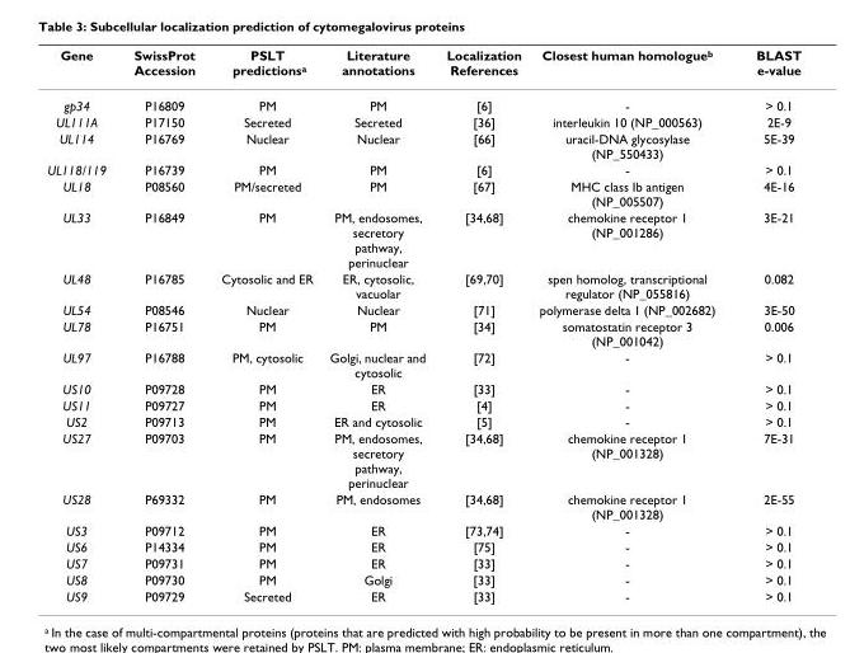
<table><thead><tr><td>Gene</td><td>SwissProt Accession</td><td>PSLT predictions<sup>a</sup></td><td>Literature annotations</td><td>Localization References</td><td>Closest human homologue<sup>b</sup></td><td>BLAST e-value</td></tr></thead><tbody><tr><td>gp34</td><td>P16809</td><td>PM</td><td>PM</td><td>[6]</td><td>-</td><td>&gt; 0.1</td></tr><tr><td>UL111A</td><td>P17150</td><td>Secreted</td><td>Secreted</td><td>[36]</td><td>interleukin 10 (NP_000563)</td><td>2E-9</td></tr><tr><td>UL114</td><td>P16769</td><td>Nuclear</td><td>Nuclear</td><td>[66]</td><td>uracil-DNA glycosylase (NP_550433)</td><td>5E-39</td></tr><tr><td>UL118/119</td><td>P16739</td><td>PM</td><td>PM</td><td>[6]</td><td>-</td><td>&gt; 0.1</td></tr><tr><td>UL18</td><td>P08560</td><td>PM/secreted</td><td>PM</td><td>[67]</td><td>MHC class Ib antigen (NP_005507)</td><td>4E-16</td></tr><tr><td>UL33</td><td>P16849</td><td>PM</td><td>PM, endosomes, secretory pathway, perinuclear</td><td>[34,68]</td><td>chemokine receptor 1 (NP_001286)</td><td>3E-21</td></tr><tr><td>UL48</td><td>P16785</td><td>Cytosolic and ER</td><td>ER, cytosolic, vacuolar</td><td>[69,70]</td><td>spen homolog, transcriptional regulator (NP_055816)</td><td>0.082</td></tr><tr><td>UL54</td><td>P08546</td><td>Nuclear</td><td>Nuclear</td><td>[71]</td><td>polymerase delta 1 (NP_002682)</td><td>3E-50</td></tr><tr><td>UL78</td><td>P16751</td><td>PM</td><td>PM</td><td>[34]</td><td>somatostatin receptor 3 (NP_001042)</td><td>0.006</td></tr><tr><td>UL97</td><td>P16788</td><td>PM, cytosolic</td><td>Golgi, nuclear and cytosolic</td><td>[72]</td><td>-</td><td>&gt; 0.1</td></tr><tr><td>US10</td><td>P09728</td><td>PM</td><td>ER</td><td>[33]</td><td>-</td><td>&gt; 0.1</td></tr><tr><td>US11</td><td>P09727</td><td>PM</td><td>ER</td><td>[4]</td><td>-</td><td>&gt; 0.1</td></tr><tr><td>US2</td><td>P09713</td><td>PM</td><td>ER and cytosolic</td><td>[5]</td><td>-</td><td>&gt; 0.1</td></tr><tr><td>US27</td><td>P09703</td><td>PM</td><td>PM, endosomes, secretory pathway, perinuclear</td><td>[34,68]</td><td>chemokine receptor 1 (NP_001328)</td><td>7E-31</td></tr><tr><td>US28</td><td>P69332</td><td>PM</td><td>PM, endosomes</td><td>[34,68]</td><td>chemokine receptor 1 (NP_001328)</td><td>2E-55</td></tr><tr><td>US3</td><td>P09712</td><td>PM</td><td>ER</td><td>[73,74]</td><td>-</td><td>&gt; 0.1</td></tr><tr><td>US6</td><td>P14334</td><td>PM</td><td>ER</td><td>[75]</td><td>-</td><td>&gt; 0.1</td></tr><tr><td>US7</td><td>P09731</td><td>PM</td><td>ER</td><td>[33]</td><td>-</td><td>&gt; 0.1</td></tr><tr><td>US8</td><td>P09730</td><td>PM</td><td>Golgi</td><td>[33]</td><td>-</td><td>&gt; 0.1</td></tr><tr><td>US9</td><td>P09729</td><td>Secreted</td><td>ER</td><td>[33]</td><td>-</td><td>&gt; 0.1</td></tr></tbody></table>